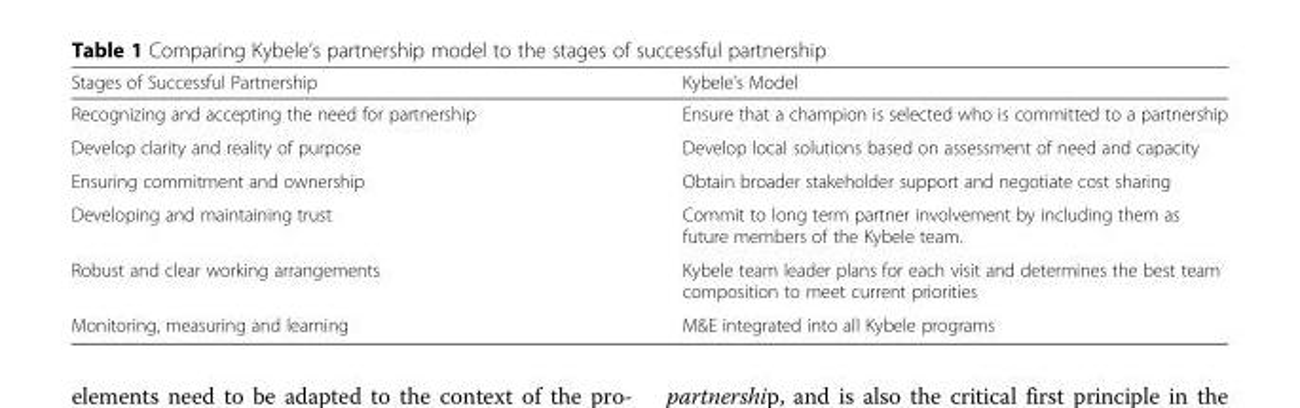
<table><thead><tr><td>Stages of Successful Partnership</td><td>Kybele’s Model</td></tr></thead><tbody><tr><td>Recognizing and accepting the need for partnership</td><td>Ensure that a champion is selected who is committed to a partnership</td></tr><tr><td>Develop clarity and reality of purpose</td><td>Develop local solutions based on assessment of need and capacity</td></tr><tr><td>Ensuring commitment and ownership</td><td>Obtain broader stakeholder support and negotiate cost sharing</td></tr><tr><td>Developing and maintaining trust</td><td>Commit to long term partner involvement by including them as future members of the Kybele team.</td></tr><tr><td>Robust and clear working arrangements</td><td>Kybele team leader plans for each visit and determines the best team composition to meet current priorities</td></tr><tr><td>Monitoring, measuring and learning</td><td>M&amp;E integrated into all Kybele programs</td></tr></tbody></table>